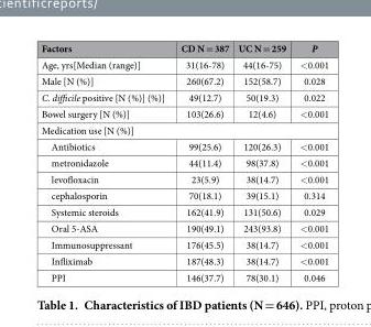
<table><thead><tr><td>Factors</td><td>CD N = 387</td><td>UC N = 259</td><td>P</td></tr></thead><tbody><tr><td>Age, yrs[Median (range)]</td><td>31(16-78)</td><td>44(16-75)</td><td>&lt; 0.001</td></tr><tr><td>Male [N (%)]</td><td>260(67.2)</td><td>152(58.7)</td><td>0.028</td></tr><tr><td>C. difficile positive [N (%)] (%)]</td><td>49(12.7)</td><td>50(19.3)</td><td>0.022</td></tr><tr><td>Bowel surgery [N (%)]</td><td>103(26.6)</td><td>12(4.6)</td><td>&lt; 0.001</td></tr><tr><td colspan="4">Medication use [N (%)]</td></tr><tr><td>Antibiotics</td><td>99(25.6)</td><td>120(26.3)</td><td>&lt; 0.001</td></tr><tr><td>metronidazole</td><td>44(11.4)</td><td>98(37.8)</td><td>&lt; 0.001</td></tr><tr><td>levofloxacin</td><td>23(5.9)</td><td>38(14.7)</td><td>&lt; 0.001</td></tr><tr><td>cephalosporin</td><td>70(18.1)</td><td>39(15.1)</td><td>0.314</td></tr><tr><td>Systemic steroids</td><td>162(41.9)</td><td>131(50.6)</td><td>0.029</td></tr><tr><td>Oral 5-ASA</td><td>190(49.1)</td><td>243(93.8)</td><td>&lt; 0.001</td></tr><tr><td>Immunosuppressant</td><td>176(45.5)</td><td>38(14.7)</td><td>&lt; 0.001</td></tr><tr><td>Infliximab</td><td>187(48.3)</td><td>38(14.7)</td><td>&lt; 0.001</td></tr><tr><td>PPI</td><td>146(37.7)</td><td>78(30.1)</td><td>0.046</td></tr></tbody></table>